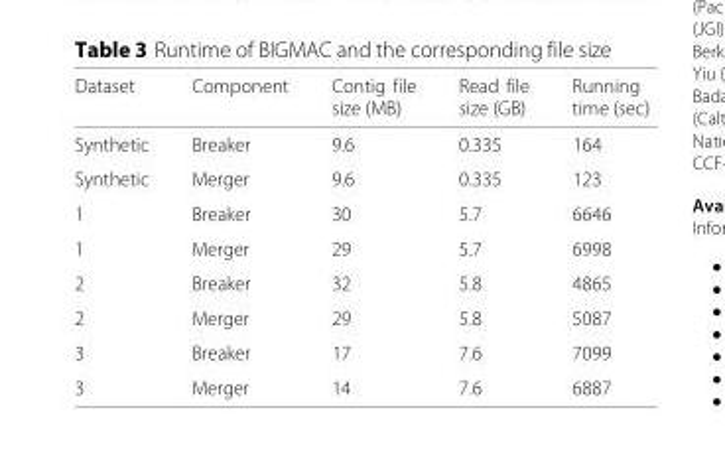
<table><thead><tr><td>Dataset</td><td>Component</td><td>Contig file size (MB)</td><td>Read file size (GB)</td><td>Running time (sec)</td></tr></thead><tbody><tr><td>Synthetic</td><td>Breaker</td><td>9.6</td><td>0.335</td><td>164</td></tr><tr><td>Synthetic</td><td>Merger</td><td>9.6</td><td>0.335</td><td>123</td></tr><tr><td>1</td><td>Breaker</td><td>30</td><td>5.7</td><td>6646</td></tr><tr><td>1</td><td>Merger</td><td>29</td><td>5.7</td><td>6998</td></tr><tr><td>2</td><td>Breaker</td><td>32</td><td>5.8</td><td>4865</td></tr><tr><td>2</td><td>Merger</td><td>29</td><td>5.8</td><td>5087</td></tr><tr><td>3</td><td>Breaker</td><td>17</td><td>7.6</td><td>7099</td></tr><tr><td>3</td><td>Merger</td><td>14</td><td>7.6</td><td>6887</td></tr></tbody></table>